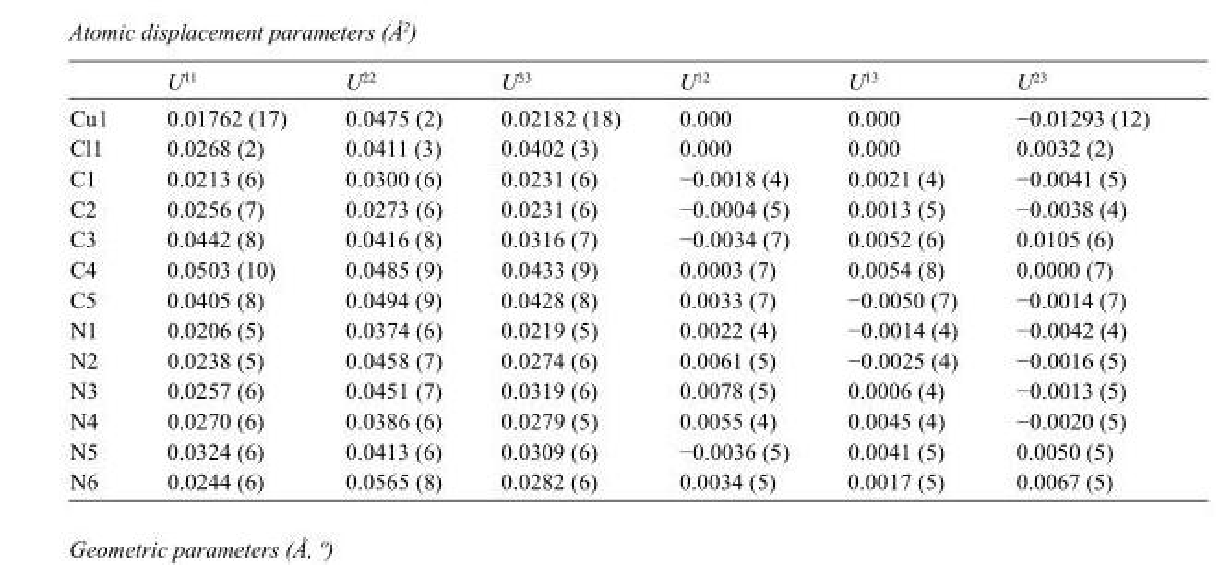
<table><thead><tr><td></td><td>U<sup>11</sup></td><td>U<sup>22</sup></td><td>U<sup>33</sup></td><td>U<sup>12</sup></td><td>U<sup>13</sup></td><td>U<sup>23</sup></td></tr></thead><tbody><tr><td>Cu1</td><td>0.01762 (17)</td><td>0.0475 (2)</td><td>0.02182 (18)</td><td>0.000</td><td>0.000</td><td>−0.01293 (12)</td></tr><tr><td>Cl1</td><td>0.0268 (2)</td><td>0.0411 (3)</td><td>0.0402 (3)</td><td>0.000</td><td>0.000</td><td>0.0032 (2)</td></tr><tr><td>C1</td><td>0.0213 (6)</td><td>0.0300 (6)</td><td>0.0231 (6)</td><td>−0.0018 (4)</td><td>0.0021 (4)</td><td>−0.0041 (5)</td></tr><tr><td>C2</td><td>0.0256 (7)</td><td>0.0273 (6)</td><td>0.0231 (6)</td><td>−0.0004 (5)</td><td>0.0013 (5)</td><td>−0.0038 (4)</td></tr><tr><td>C3</td><td>0.0442 (8)</td><td>0.0416 (8)</td><td>0.0316 (7)</td><td>−0.0034 (7)</td><td>0.0052 (6)</td><td>0.0105 (6)</td></tr><tr><td>C4</td><td>0.0503 (10)</td><td>0.0485 (9)</td><td>0.0433 (9)</td><td>0.0003 (7)</td><td>0.0054 (8)</td><td>0.0000 (7)</td></tr><tr><td>C5</td><td>0.0405 (8)</td><td>0.0494 (9)</td><td>0.0428 (8)</td><td>0.0033 (7)</td><td>−0.0050 (7)</td><td>−0.0014 (7)</td></tr><tr><td>N1</td><td>0.0206 (5)</td><td>0.0374 (6)</td><td>0.0219 (5)</td><td>0.0022 (4)</td><td>−0.0014 (4)</td><td>−0.0042 (4)</td></tr><tr><td>N2</td><td>0.0238 (5)</td><td>0.0458 (7)</td><td>0.0274 (6)</td><td>0.0061 (5)</td><td>−0.0025 (4)</td><td>−0.0016 (5)</td></tr><tr><td>N3</td><td>0.0257 (6)</td><td>0.0451 (7)</td><td>0.0319 (6)</td><td>0.0078 (5)</td><td>0.0006 (4)</td><td>−0.0013 (5)</td></tr><tr><td>N4</td><td>0.0270 (6)</td><td>0.0386 (6)</td><td>0.0279 (5)</td><td>0.0055 (4)</td><td>0.0045 (4)</td><td>−0.0020 (5)</td></tr><tr><td>N5</td><td>0.0324 (6)</td><td>0.0413 (6)</td><td>0.0309 (6)</td><td>−0.0036 (5)</td><td>0.0041 (5)</td><td>0.0050 (5)</td></tr><tr><td>N6</td><td>0.0244 (6)</td><td>0.0565 (8)</td><td>0.0282 (6)</td><td>0.0034 (5)</td><td>0.0017 (5)</td><td>0.0067 (5)</td></tr></tbody></table>